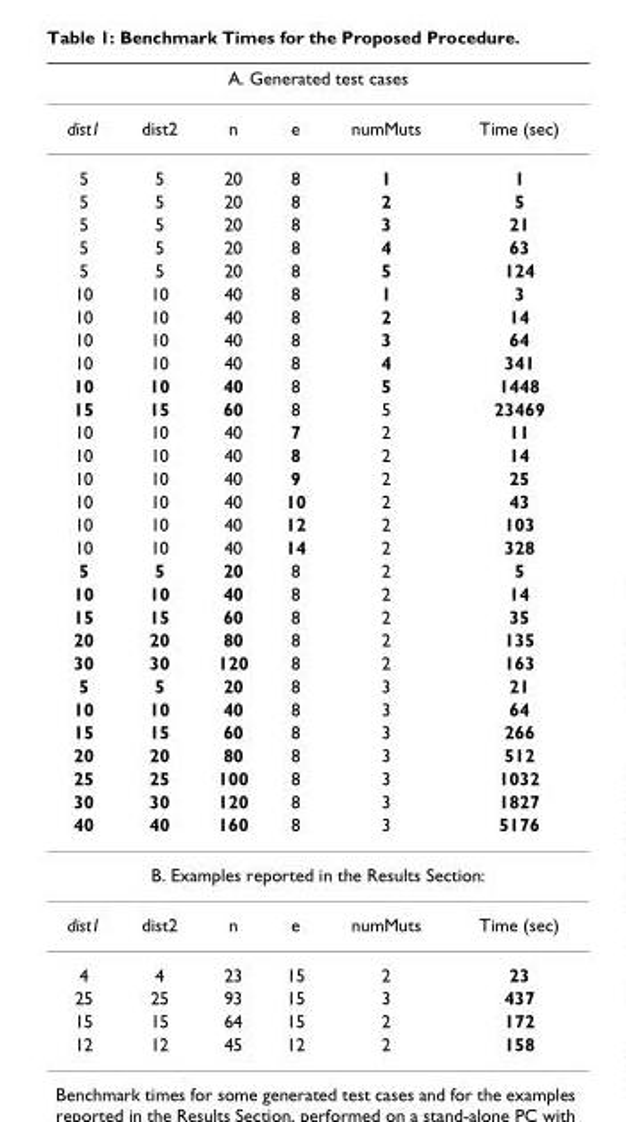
<table><thead><tr><td colspan="6">A. Generated test cases</td></tr><tr><td>dist1</td><td>dist2</td><td>n</td><td>e</td><td>numMuts</td><td>Time (sec)</td></tr></thead><tbody><tr><td>5</td><td>5</td><td>20</td><td>8</td><td>1</td><td>1</td></tr><tr><td>5</td><td>5</td><td>20</td><td>8</td><td>2</td><td>5</td></tr><tr><td>5</td><td>5</td><td>20</td><td>8</td><td>3</td><td>21</td></tr><tr><td>5</td><td>5</td><td>20</td><td>8</td><td>4</td><td>63</td></tr><tr><td>5</td><td>5</td><td>20</td><td>8</td><td>5</td><td>124</td></tr><tr><td>10</td><td>10</td><td>40</td><td>8</td><td>1</td><td>3</td></tr><tr><td>10</td><td>10</td><td>40</td><td>8</td><td>2</td><td>14</td></tr><tr><td>10</td><td>10</td><td>40</td><td>8</td><td>3</td><td>64</td></tr><tr><td>10</td><td>10</td><td>40</td><td>8</td><td>4</td><td>341</td></tr><tr><td>10</td><td>10</td><td>40</td><td>8</td><td>5</td><td>1448</td></tr><tr><td>15</td><td>15</td><td>60</td><td>8</td><td>5</td><td>23469</td></tr><tr><td>10</td><td>10</td><td>40</td><td>7</td><td>2</td><td>11</td></tr><tr><td>10</td><td>10</td><td>40</td><td>8</td><td>2</td><td>14</td></tr><tr><td>10</td><td>10</td><td>40</td><td>9</td><td>2</td><td>25</td></tr><tr><td>10</td><td>10</td><td>40</td><td>10</td><td>2</td><td>43</td></tr><tr><td>10</td><td>10</td><td>40</td><td>12</td><td>2</td><td>103</td></tr><tr><td>10</td><td>10</td><td>40</td><td>14</td><td>2</td><td>328</td></tr><tr><td>5</td><td>5</td><td>20</td><td>8</td><td>2</td><td>5</td></tr><tr><td>10</td><td>10</td><td>40</td><td>8</td><td>2</td><td>14</td></tr><tr><td>15</td><td>15</td><td>60</td><td>8</td><td>2</td><td>35</td></tr><tr><td>20</td><td>20</td><td>80</td><td>8</td><td>2</td><td>135</td></tr><tr><td>30</td><td>30</td><td>120</td><td>8</td><td>2</td><td>163</td></tr><tr><td>5</td><td>5</td><td>20</td><td>8</td><td>3</td><td>21</td></tr><tr><td>10</td><td>10</td><td>40</td><td>8</td><td>3</td><td>64</td></tr><tr><td>15</td><td>15</td><td>60</td><td>8</td><td>3</td><td>266</td></tr><tr><td>20</td><td>20</td><td>80</td><td>8</td><td>3</td><td>512</td></tr><tr><td>25</td><td>25</td><td>100</td><td>8</td><td>3</td><td>1032</td></tr><tr><td>30</td><td>30</td><td>120</td><td>8</td><td>3</td><td>1827</td></tr><tr><td>40</td><td>40</td><td>160</td><td>8</td><td>3</td><td>5176</td></tr><tr><td colspan="6">B. Examples reported in the Results Section:</td></tr><tr><td>dist1</td><td>dist2</td><td>n</td><td>e</td><td>numMuts</td><td>Time (sec)</td></tr><tr><td>4</td><td>4</td><td>23</td><td>15</td><td>2</td><td>23</td></tr><tr><td>25</td><td>25</td><td>93</td><td>15</td><td>3</td><td>437</td></tr><tr><td>15</td><td>15</td><td>64</td><td>15</td><td>2</td><td>172</td></tr><tr><td>12</td><td>12</td><td>45</td><td>12</td><td>2</td><td>158</td></tr></tbody></table>